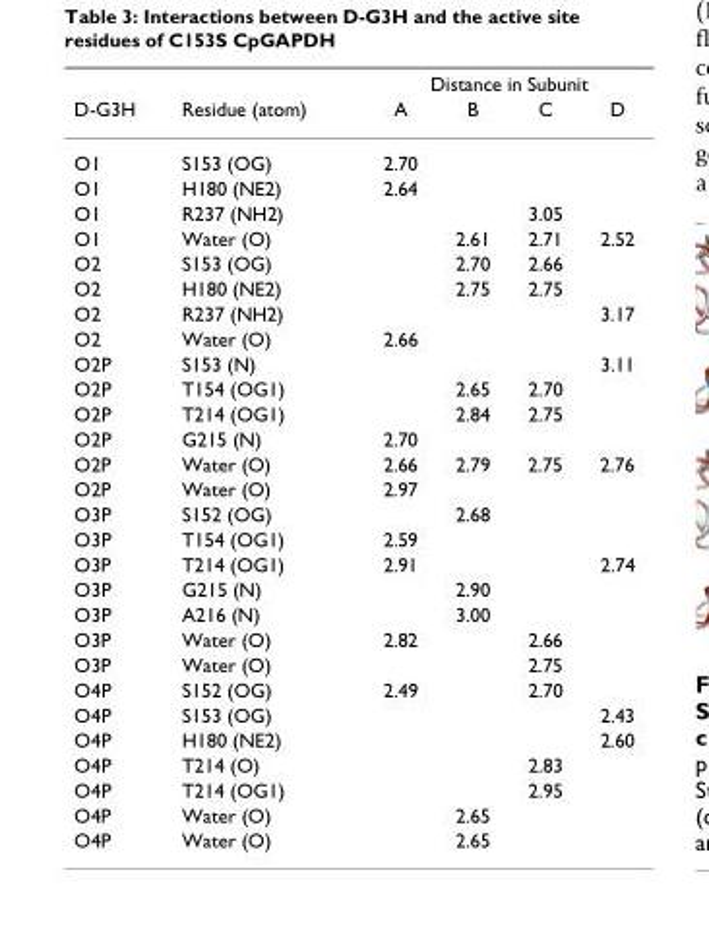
<table><thead><tr><td rowspan="2">D-G3H</td><td rowspan="2">Residue (atom)</td><td colspan="4">Distance in Subunit</td></tr><tr><td>A</td><td>B</td><td>C</td><td>D</td></tr></thead><tbody><tr><td>O1</td><td>S153 (OG)</td><td>2.70</td><td></td><td></td><td></td></tr><tr><td>O1</td><td>H180 (NE2)</td><td>2.64</td><td></td><td></td><td></td></tr><tr><td>O1</td><td>R237 (NH2)</td><td></td><td></td><td>3.05</td><td></td></tr><tr><td>O1</td><td>Water (O)</td><td></td><td>2.61</td><td>2.71</td><td>2.52</td></tr><tr><td>O2</td><td>S153 (OG)</td><td></td><td>2.70</td><td>2.66</td><td></td></tr><tr><td>O2</td><td>H180 (NE2)</td><td></td><td>2.75</td><td>2.75</td><td></td></tr><tr><td>O2</td><td>R237 (NH2)</td><td></td><td></td><td></td><td>3.17</td></tr><tr><td>O2</td><td>Water (O)</td><td>2.66</td><td></td><td></td><td></td></tr><tr><td>O2P</td><td>S153 (N)</td><td></td><td></td><td></td><td>3.11</td></tr><tr><td>O2P</td><td>T154 (OG1)</td><td></td><td>2.65</td><td>2.70</td><td></td></tr><tr><td>O2P</td><td>T214 (OG1)</td><td></td><td>2.84</td><td>2.75</td><td></td></tr><tr><td>O2P</td><td>G215 (N)</td><td>2.70</td><td></td><td></td><td></td></tr><tr><td>O2P</td><td>Water (O)</td><td>2.66</td><td>2.79</td><td>2.75</td><td>2.76</td></tr><tr><td>O2P</td><td>Water (O)</td><td>2.97</td><td></td><td></td><td></td></tr><tr><td>O3P</td><td>S152 (OG)</td><td></td><td>2.68</td><td></td><td></td></tr><tr><td>O3P</td><td>T154 (OG1)</td><td>2.59</td><td></td><td></td><td></td></tr><tr><td>O3P</td><td>T214 (OG1)</td><td>2.91</td><td></td><td></td><td>2.74</td></tr><tr><td>O3P</td><td>G215 (N)</td><td></td><td>2.90</td><td></td><td></td></tr><tr><td>O3P</td><td>A216 (N)</td><td></td><td>3.00</td><td></td><td></td></tr><tr><td>O3P</td><td>Water (O)</td><td>2.82</td><td></td><td>2.66</td><td></td></tr><tr><td>O3P</td><td>Water (O)</td><td></td><td></td><td>2.75</td><td></td></tr><tr><td>O4P</td><td>S152 (OG)</td><td>2.49</td><td></td><td>2.70</td><td></td></tr><tr><td>O4P</td><td>S153 (OG)</td><td></td><td></td><td></td><td>2.43</td></tr><tr><td>O4P</td><td>H180 (NE2)</td><td></td><td></td><td></td><td>2.60</td></tr><tr><td>O4P</td><td>T214 (O)</td><td></td><td></td><td>2.83</td><td></td></tr><tr><td>O4P</td><td>T214 (OG1)</td><td></td><td></td><td>2.95</td><td></td></tr><tr><td>O4P</td><td>Water (O)</td><td></td><td>2.65</td><td></td><td></td></tr><tr><td>O4P</td><td>Water (O)</td><td></td><td>2.65</td><td></td><td></td></tr></tbody></table>